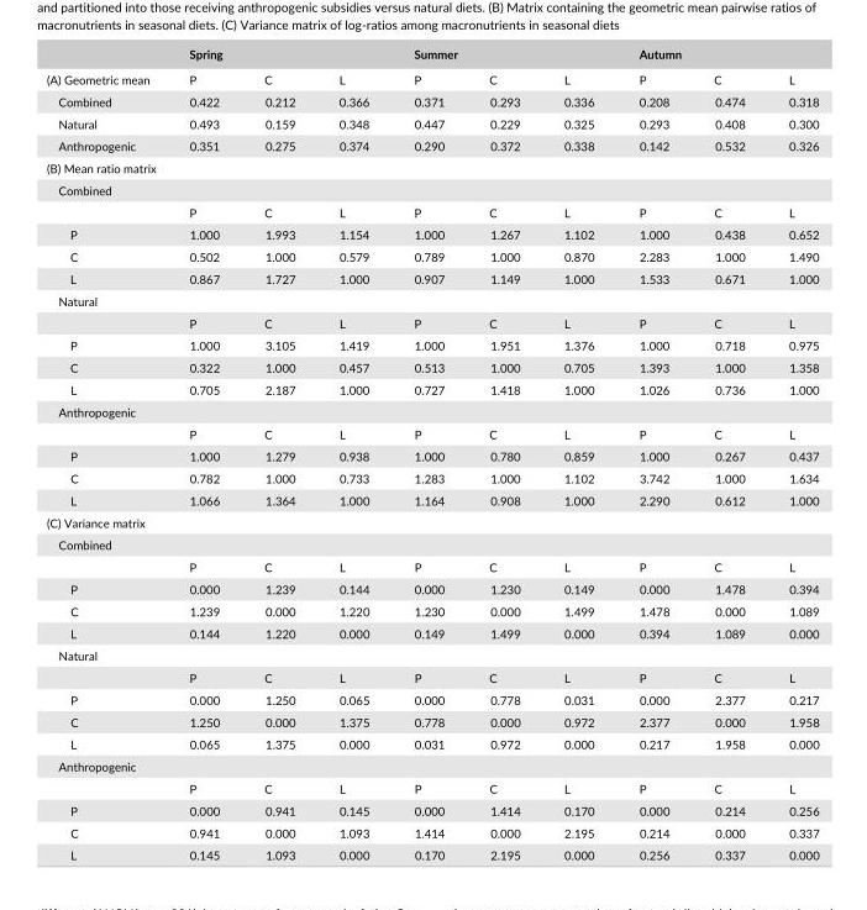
<table><thead><tr><td rowspan="2">(A) Geometric mean</td><td colspan="3">Spring</td><td colspan="3">Summer</td><td colspan="3">Autumn</td></tr><tr><td>P</td><td>C</td><td>L</td><td>P</td><td>C</td><td>L</td><td>P</td><td>C</td><td>L</td></tr></thead><tbody><tr><td>Combined</td><td>0.422</td><td>0.212</td><td>0.366</td><td>0.371</td><td>0.293</td><td>0.336</td><td>0.208</td><td>0.474</td><td>0.318</td></tr><tr><td>Natural</td><td>0.493</td><td>0.159</td><td>0.348</td><td>0.447</td><td>0.229</td><td>0.325</td><td>0.293</td><td>0.408</td><td>0.300</td></tr><tr><td>Anthropogenic</td><td>0.351</td><td>0.275</td><td>0.374</td><td>0.290</td><td>0.372</td><td>0.338</td><td>0.142</td><td>0.532</td><td>0.326</td></tr><tr><td colspan="10">(B) Mean ratio matrix</td></tr><tr><td colspan="10">Combined</td></tr><tr><td></td><td>P</td><td>C</td><td>L</td><td>P</td><td>C</td><td>L</td><td>P</td><td>C</td><td>L</td></tr><tr><td>P</td><td>1.000</td><td>1.993</td><td>1.154</td><td>1.000</td><td>1.267</td><td>1.102</td><td>1.000</td><td>0.438</td><td>0.652</td></tr><tr><td>C</td><td>0.502</td><td>1.000</td><td>0.579</td><td>0.789</td><td>1.000</td><td>0.870</td><td>2.283</td><td>1.000</td><td>1.490</td></tr><tr><td>L</td><td>0.867</td><td>1.727</td><td>1.000</td><td>0.907</td><td>1.149</td><td>1.000</td><td>1.533</td><td>0.671</td><td>1.000</td></tr><tr><td colspan="10">Natural</td></tr><tr><td></td><td>P</td><td>C</td><td>L</td><td>P</td><td>C</td><td>L</td><td>P</td><td>C</td><td>L</td></tr><tr><td>P</td><td>1.000</td><td>3.105</td><td>1.419</td><td>1.000</td><td>1.951</td><td>1.376</td><td>1.000</td><td>0.718</td><td>0.975</td></tr><tr><td>C</td><td>0.322</td><td>1.000</td><td>0.457</td><td>0.513</td><td>1.000</td><td>0.705</td><td>1.393</td><td>1.000</td><td>1.358</td></tr><tr><td>L</td><td>0.705</td><td>2.187</td><td>1.000</td><td>0.727</td><td>1.418</td><td>1.000</td><td>1.026</td><td>0.736</td><td>1.000</td></tr><tr><td colspan="10">Anthropogenic</td></tr><tr><td></td><td>P</td><td>C</td><td>L</td><td>P</td><td>C</td><td>L</td><td>P</td><td>C</td><td>L</td></tr><tr><td>P</td><td>1.000</td><td>1.279</td><td>0.938</td><td>1.000</td><td>0.780</td><td>0.859</td><td>1.000</td><td>0.267</td><td>0.437</td></tr><tr><td>C</td><td>0.782</td><td>1.000</td><td>0.733</td><td>1.283</td><td>1.000</td><td>1.102</td><td>3.742</td><td>1.000</td><td>1.634</td></tr><tr><td>L</td><td>1.066</td><td>1.364</td><td>1.000</td><td>1.164</td><td>0.908</td><td>1.000</td><td>2.290</td><td>0.612</td><td>1.000</td></tr><tr><td colspan="10">(C) Variance matrix</td></tr><tr><td colspan="10">Combined</td></tr><tr><td></td><td>P</td><td>C</td><td>L</td><td>P</td><td>C</td><td>L</td><td>P</td><td>C</td><td>L</td></tr><tr><td>P</td><td>0.000</td><td>1.239</td><td>0.144</td><td>0.000</td><td>1.230</td><td>0.149</td><td>0.000</td><td>1.478</td><td>0.394</td></tr><tr><td>C</td><td>1.239</td><td>0.000</td><td>1.220</td><td>1.230</td><td>0.000</td><td>1.499</td><td>1.478</td><td>0.000</td><td>1.089</td></tr><tr><td>L</td><td>0.144</td><td>1.220</td><td>0.000</td><td>0.149</td><td>1.499</td><td>0.000</td><td>0.394</td><td>1.089</td><td>0.000</td></tr><tr><td colspan="10">Natural</td></tr><tr><td></td><td>P</td><td>C</td><td>L</td><td>P</td><td>C</td><td>L</td><td>P</td><td>C</td><td>L</td></tr><tr><td>P</td><td>0.000</td><td>1.250</td><td>0.065</td><td>0.000</td><td>0.778</td><td>0.031</td><td>0.000</td><td>2.377</td><td>0.217</td></tr><tr><td>C</td><td>1.250</td><td>0.000</td><td>1.375</td><td>0.778</td><td>0.000</td><td>0.972</td><td>2.377</td><td>0.000</td><td>1.958</td></tr><tr><td>L</td><td>0.065</td><td>1.375</td><td>0.000</td><td>0.031</td><td>0.972</td><td>0.000</td><td>0.217</td><td>1.958</td><td>0.000</td></tr><tr><td colspan="10">Anthropogenic</td></tr><tr><td></td><td>P</td><td>C</td><td>L</td><td>P</td><td>C</td><td>L</td><td>P</td><td>C</td><td>L</td></tr><tr><td>P</td><td>0.000</td><td>0.941</td><td>0.145</td><td>0.000</td><td>1.414</td><td>0.170</td><td>0.000</td><td>0.214</td><td>0.256</td></tr><tr><td>C</td><td>0.941</td><td>0.000</td><td>1.093</td><td>1.414</td><td>0.000</td><td>2.195</td><td>0.214</td><td>0.000</td><td>0.337</td></tr><tr><td>L</td><td>0.145</td><td>1.093</td><td>0.000</td><td>0.170</td><td>2.195</td><td>0.000</td><td>0.256</td><td>0.337</td><td>0.000</td></tr></tbody></table>